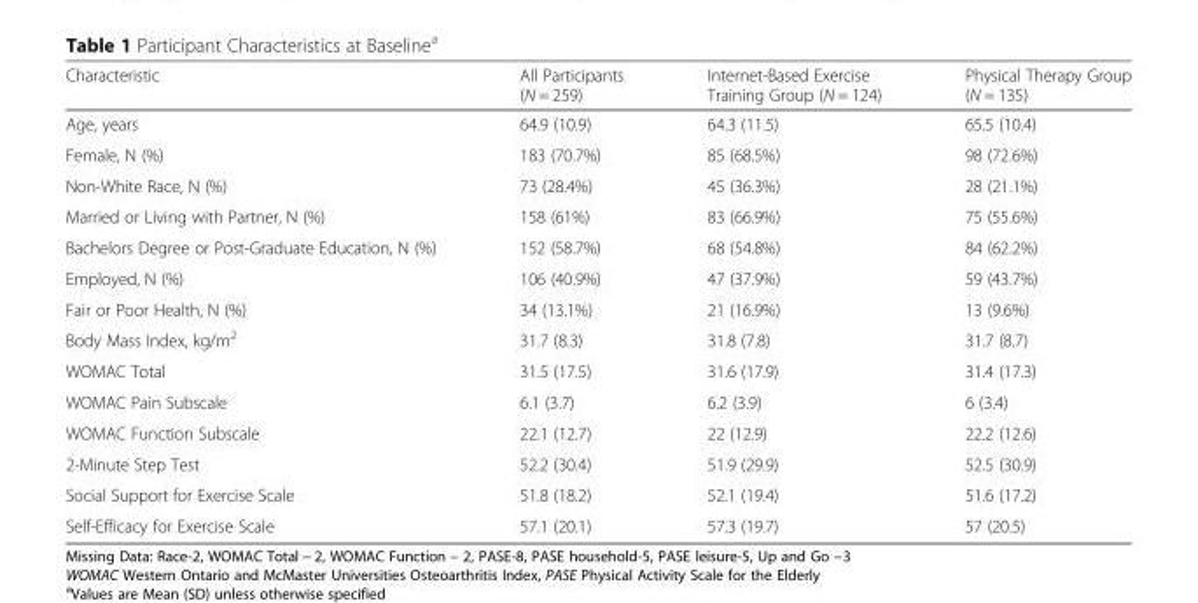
<table><thead><tr><td>Characteristic</td><td>All Participants (N = 259)</td><td>Internet-Based Exercise Training Group (N = 124)</td><td>Physical Therapy Group (N = 135)</td></tr></thead><tbody><tr><td>Age, years</td><td>64.9 (10.9)</td><td>64.3 (11.5)</td><td>65.5 (10.4)</td></tr><tr><td>Female, N (%)</td><td>183 (70.7%)</td><td>85 (68.5%)</td><td>98 (72.6%)</td></tr><tr><td>Non-White Race, N (%)</td><td>73 (28.4%)</td><td>45 (36.3%)</td><td>28 (21.1%)</td></tr><tr><td>Married or Living with Partner, N (%)</td><td>158 (61%)</td><td>83 (66.9%)</td><td>75 (55.6%)</td></tr><tr><td>Bachelors Degree or Post-Graduate Education, N (%)</td><td>152 (58.7%)</td><td>68 (54.8%)</td><td>84 (62.2%)</td></tr><tr><td>Employed, N (%)</td><td>106 (40.9%)</td><td>47 (37.9%)</td><td>59 (43.7%)</td></tr><tr><td>Fair or Poor Health, N (%)</td><td>34 (13.1%)</td><td>21 (16.9%)</td><td>13 (9.6%)</td></tr><tr><td>Body Mass Index, kg/m<sup>2</sup></td><td>31.7 (8.3)</td><td>31.8 (7.8)</td><td>31.7 (8.7)</td></tr><tr><td>WOMAC Total</td><td>31.5 (17.5)</td><td>31.6 (17.9)</td><td>31.4 (17.3)</td></tr><tr><td>WOMAC Pain Subscale</td><td>6.1 (3.7)</td><td>6.2 (3.9)</td><td>6 (3.4)</td></tr><tr><td>WOMAC Function Subscale</td><td>22.1 (12.7)</td><td>22 (12.9)</td><td>22.2 (12.6)</td></tr><tr><td>2-Minute Step Test</td><td>52.2 (30.4)</td><td>51.9 (29.9)</td><td>52.5 (30.9)</td></tr><tr><td>Social Support for Exercise Scale</td><td>51.8 (18.2)</td><td>52.1 (19.4)</td><td>51.6 (17.2)</td></tr><tr><td>Self-Efficacy for Exercise Scale</td><td>57.1 (20.1)</td><td>57.3 (19.7)</td><td>57 (20.5)</td></tr></tbody></table>